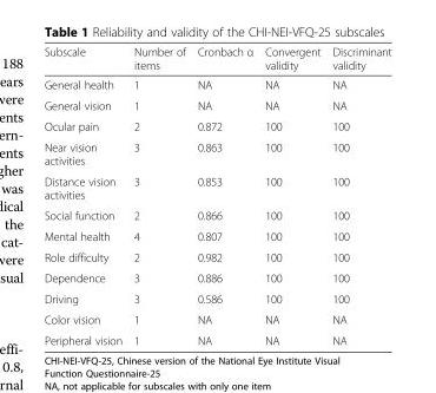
<table><thead><tr><td>Subscale</td><td>Number of items</td><td>Cronbach α</td><td>Convergent validity</td><td>Discriminant validity</td></tr></thead><tbody><tr><td>General health</td><td>1</td><td>NA</td><td>NA</td><td>NA</td></tr><tr><td>General vision</td><td>1</td><td>NA</td><td>NA</td><td>NA</td></tr><tr><td>Ocular pain</td><td>2</td><td>0.872</td><td>100</td><td>100</td></tr><tr><td>Near vision activities</td><td>3</td><td>0.863</td><td>100</td><td>100</td></tr><tr><td>Distance vision activities</td><td>3</td><td>0.853</td><td>100</td><td>100</td></tr><tr><td>Social function</td><td>2</td><td>0.866</td><td>100</td><td>100</td></tr><tr><td>Mental health</td><td>4</td><td>0.807</td><td>100</td><td>100</td></tr><tr><td>Role difficulty</td><td>2</td><td>0.982</td><td>100</td><td>100</td></tr><tr><td>Dependence</td><td>3</td><td>0.886</td><td>100</td><td>100</td></tr><tr><td>Driving</td><td>3</td><td>0.586</td><td>100</td><td>100</td></tr><tr><td>Color vision</td><td>1</td><td>NA</td><td>NA</td><td>NA</td></tr><tr><td>Peripheral vision</td><td>1</td><td>NA</td><td>NA</td><td>NA</td></tr></tbody></table>